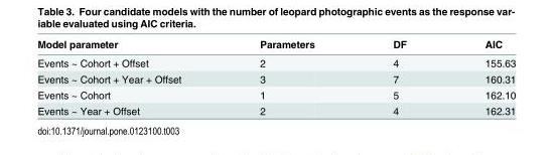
<table><thead><tr><td>Model parameter</td><td>Parameters</td><td>DF</td><td>AIC</td></tr></thead><tbody><tr><td>Events ~ Cohort + Offset</td><td>2</td><td>4</td><td>155.63</td></tr><tr><td>Events ~ Cohort + Year + Offset</td><td>3</td><td>7</td><td>160.31</td></tr><tr><td>Events ~ Cohort</td><td>1</td><td>5</td><td>162.10</td></tr><tr><td>Events ~ Year + Offset</td><td>2</td><td>4</td><td>162.31</td></tr></tbody></table>